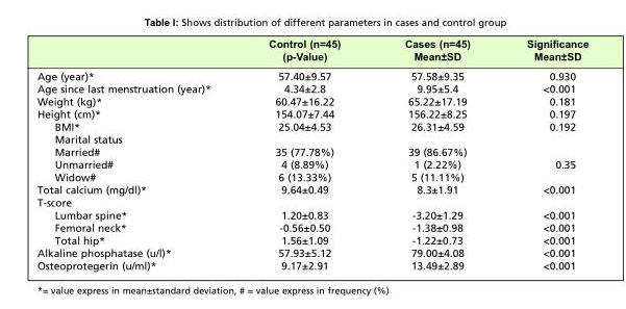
<table><thead><tr><td></td><td>Control (n=45) (p-Value)</td><td>Cases (n=45) Mean±SD</td><td>Significance Mean±SD</td></tr></thead><tbody><tr><td>Age (year)*</td><td>57.40±9.57</td><td>57.58±9.35</td><td>0.930</td></tr><tr><td>Age since last menstruation (year)*</td><td>4.34±2.8</td><td>9.95±5.4</td><td>&lt;0.001</td></tr><tr><td>Weight (kg)*</td><td>60.47±16.22</td><td>65.22±17.19</td><td>0.181</td></tr><tr><td>Height (cm)*</td><td>154.07±7.44</td><td>156.22±8.25</td><td>0.197</td></tr><tr><td>BMI*</td><td>25.04±4.53</td><td>26.31±4.59</td><td>0.192</td></tr><tr><td colspan="4">Marital status</td></tr><tr><td>Married#</td><td>35 (77.78%)</td><td>39 (86.67%)</td><td></td></tr><tr><td>Unmarried#</td><td>4 (8.89%)</td><td>1 (2.22%)</td><td>0.35</td></tr><tr><td>Widow#</td><td>6 (13.33%)</td><td>5 (11.11%)</td><td></td></tr><tr><td>Total calcium (mg/dl)*</td><td>9.64±0.49</td><td>8.3±1.91</td><td>&lt;0.001</td></tr><tr><td colspan="4">T-score</td></tr><tr><td>Lumbar spine*</td><td>1.20±0.83</td><td>-3.20±1.29</td><td>&lt;0.001</td></tr><tr><td>Femoral neck*</td><td>-0.56±0.50</td><td>-1.38±0.98</td><td>&lt;0.001</td></tr><tr><td>Total hip*</td><td>1.56±1.09</td><td>-1.22±0.73</td><td>&lt;0.001</td></tr><tr><td>Alkaline phosphatase (u/l)*</td><td>57.93±5.12</td><td>79.00±4.08</td><td>&lt;0.001</td></tr><tr><td>Osteoprotegerin (u/ml)*</td><td>9.17±2.91</td><td>13.49±2.89</td><td>&lt;0.001</td></tr></tbody></table>